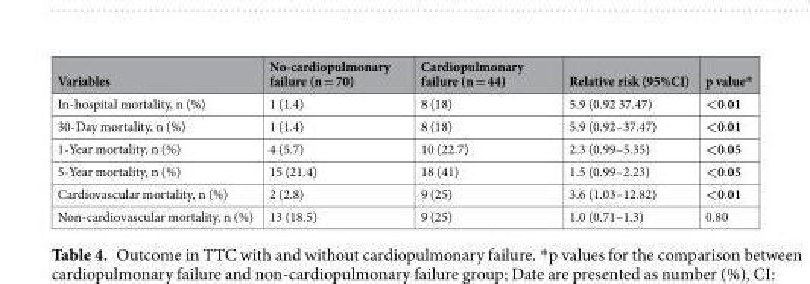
<table><thead><tr><td>Variables</td><td>No-cardiopulmonary failure (n = 70)</td><td>Cardiopulmonary failure (n = 44)</td><td>Relative risk (95%CI)</td><td>p value*</td></tr></thead><tbody><tr><td>In-hospital mortality, n (%)</td><td>1 (1.4)</td><td>8 (18)</td><td>5.9 (0.92 37.47)</td><td>&lt;0.01</td></tr><tr><td>30-Day mortality, n (%)</td><td>1 (1.4)</td><td>8 (18)</td><td>5.9 (0.92–37.47)</td><td>&lt;0.01</td></tr><tr><td>1-Year mortality, n (%)</td><td>4 (5.7)</td><td>10 (22.7)</td><td>2.3 (0.99–5.35)</td><td>&lt;0.05</td></tr><tr><td>5-Year mortality, n (%)</td><td>15 (21.4)</td><td>18 (41)</td><td>1.5 (0.99–2.23)</td><td>&lt;0.05</td></tr><tr><td>Cardiovascular mortality, n (%)</td><td>2 (2.8)</td><td>9 (25)</td><td>3.6 (1.03–12.82)</td><td>&lt;0.01</td></tr><tr><td>Non-cardiovascular mortality, n (%)</td><td>13 (18.5)</td><td>9 (25)</td><td>1.0 (0.71–1.3)</td><td>0.80</td></tr></tbody></table>